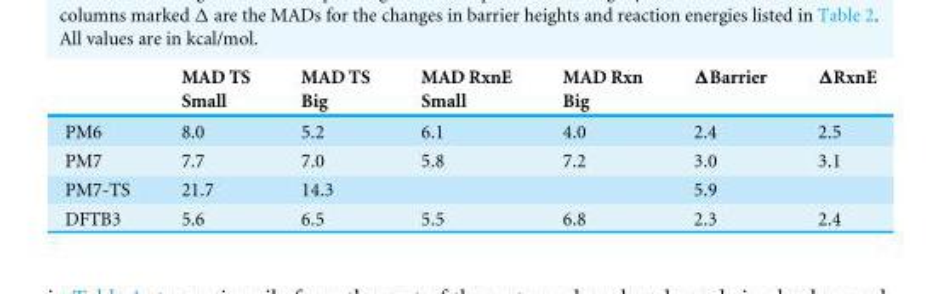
<table><thead><tr><td></td><td>MAD TS Small</td><td>MAD TS Big</td><td>MAD RxnE Small</td><td>MAD Rxn Big</td><td>ΔBarrier</td><td>ΔRxnE</td></tr></thead><tbody><tr><td>PM6</td><td>8.0</td><td>5.2</td><td>6.1</td><td>4.0</td><td>2.4</td><td>2.5</td></tr><tr><td>PM7</td><td>7.7</td><td>7.0</td><td>5.8</td><td>7.2</td><td>3.0</td><td>3.1</td></tr><tr><td>PM7-TS</td><td>21.7</td><td>14.3</td><td></td><td></td><td>5.9</td><td></td></tr><tr><td>DFTB3</td><td>5.6</td><td>6.5</td><td>5.5</td><td>6.8</td><td>2.3</td><td>2.4</td></tr></tbody></table>